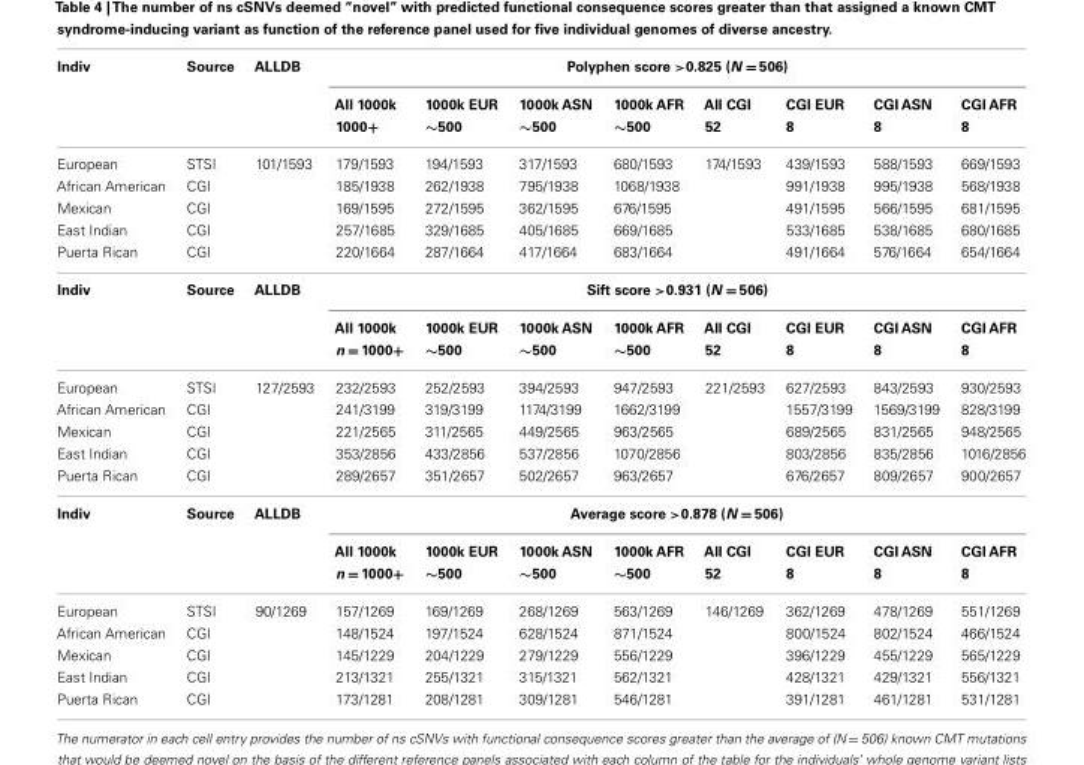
<table><thead><tr><td rowspan="3">Indiv</td><td rowspan="3">Source</td><td rowspan="3">ALLDB</td><td colspan="8">Polyphen score &gt;0.825 (N = 506)</td></tr><tr><td rowspan="2">All 1000k 1000+</td><td rowspan="2">1000k EUR ∼500</td><td rowspan="2">1000k ASN ∼500</td><td rowspan="2">1000k AFR ∼500</td><td rowspan="2">All CGI 52</td><td rowspan="2">CGI EUR 8</td><td rowspan="2">CGI ASN 8</td><td rowspan="2">CGI AFR 8</td></tr><tr></tr></thead><tbody><tr><td>European</td><td>STSI</td><td>101/1593</td><td>179/1593</td><td>194/1593</td><td>317/1593</td><td>680/1593</td><td>174/1593</td><td>439/1593</td><td>588/1593</td><td>669/1593</td></tr><tr><td>African American</td><td>CGI</td><td></td><td>185/1938</td><td>262/1938</td><td>795/1938</td><td>1068/1938</td><td></td><td>991/1938</td><td>995/1938</td><td>568/1938</td></tr><tr><td>Mexican</td><td>CGI</td><td></td><td>169/1595</td><td>272/1595</td><td>362/1595</td><td>676/1595</td><td></td><td>491/1595</td><td>566/1595</td><td>681/1595</td></tr><tr><td>East Indian</td><td>CGI</td><td></td><td>257/1685</td><td>329/1685</td><td>405/1685</td><td>669/1685</td><td></td><td>533/1685</td><td>538/1685</td><td>680/1685</td></tr><tr><td>Puerta Rican</td><td>CGI</td><td></td><td>220/1664</td><td>287/1664</td><td>417/1664</td><td>683/1664</td><td></td><td>491/1664</td><td>576/1664</td><td>654/1664</td></tr><tr><td rowspan="3">Indiv</td><td>Source</td><td>ALLDB</td><td colspan="8">Sift score &gt;0.931 (N = 506)</td></tr><tr><td></td><td></td><td>All 1000k</td><td>1000k EUR</td><td>1000k ASN</td><td>1000k AFR</td><td>All CGI</td><td>CGI EUR</td><td>CGI ASN</td><td>CGI AFR</td></tr><tr><td></td><td></td><td>n = 1000+</td><td>∼500</td><td>∼500</td><td>∼500</td><td>52</td><td>8</td><td>8</td><td>8</td></tr><tr><td>European</td><td>STSI</td><td>127/2593</td><td>232/2593</td><td>252/2593</td><td>394/2593</td><td>947/2593</td><td>221/2593</td><td>627/2593</td><td>843/2593</td><td>930/2593</td></tr><tr><td>African American</td><td>CGI</td><td></td><td>241/3199</td><td>319/3199</td><td>1174/3199</td><td>1662/3199</td><td></td><td>1557/3199</td><td>1569/3199</td><td>828/3199</td></tr><tr><td>Mexican</td><td>CGI</td><td></td><td>221/2565</td><td>311/2565</td><td>449/2565</td><td>963/2565</td><td></td><td>689/2565</td><td>831/2565</td><td>948/2565</td></tr><tr><td>East Indian</td><td>CGI</td><td></td><td>353/2856</td><td>433/2856</td><td>537/2856</td><td>1070/2856</td><td></td><td>803/2856</td><td>835/2856</td><td>1016/2856</td></tr><tr><td>Puerta Rican</td><td>CGI</td><td></td><td>289/2657</td><td>351/2657</td><td>502/2657</td><td>963/2657</td><td></td><td>676/2657</td><td>809/2657</td><td>900/2657</td></tr><tr><td rowspan="3">Indiv</td><td>Source</td><td>ALLDB</td><td colspan="8">Average score &gt;0.878 (N = 506)</td></tr><tr><td></td><td></td><td>All 1000k</td><td>1000k EUR</td><td>1000k ASN</td><td>1000k AFR</td><td>All CGI</td><td>CGI EUR</td><td>CGI ASN</td><td>CGI AFR</td></tr><tr><td></td><td></td><td>n = 1000+</td><td>∼500</td><td>∼500</td><td>∼500</td><td>52</td><td>8</td><td>8</td><td>8</td></tr><tr><td>European</td><td>STSI</td><td>90/1269</td><td>157/1269</td><td>169/1269</td><td>268/1269</td><td>563/1269</td><td>146/1269</td><td>362/1269</td><td>478/1269</td><td>551/1269</td></tr><tr><td>African American</td><td>CGI</td><td></td><td>148/1524</td><td>197/1524</td><td>628/1524</td><td>871/1524</td><td></td><td>800/1524</td><td>802/1524</td><td>466/1524</td></tr><tr><td>Mexican</td><td>CGI</td><td></td><td>145/1229</td><td>204/1229</td><td>279/1229</td><td>556/1229</td><td></td><td>396/1229</td><td>455/1229</td><td>565/1229</td></tr><tr><td>East Indian</td><td>CGI</td><td></td><td>213/1321</td><td>255/1321</td><td>315/1321</td><td>562/1321</td><td></td><td>428/1321</td><td>429/1321</td><td>556/1321</td></tr><tr><td>Puerta Rican</td><td>CGI</td><td></td><td>173/1281</td><td>208/1281</td><td>309/1281</td><td>546/1281</td><td></td><td>391/1281</td><td>461/1281</td><td>531/1281</td></tr></tbody></table>